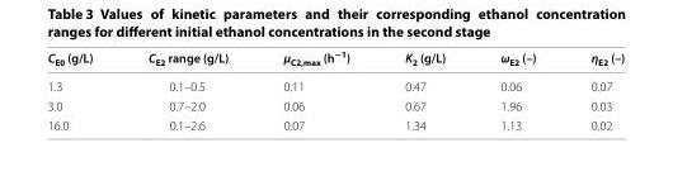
<table><thead><tr><td>C<sub>E0</sub> (g/L)</td><td>C<sub>E2</sub> range (g/L)</td><td>μ<sub>C2,max</sub> (h<sup>−1</sup>)</td><td>K<sub>2</sub> (g/L)</td><td>ω<sub>E2</sub> (–)</td><td>η<sub>E2</sub> (–)</td></tr></thead><tbody><tr><td>1.3</td><td>0.1–0.5</td><td>0.11</td><td>0.47</td><td>0.06</td><td>0.07</td></tr><tr><td>3.0</td><td>0.7–2.0</td><td>0.06</td><td>0.67</td><td>1.96</td><td>0.03</td></tr><tr><td>16.0</td><td>0.1–2.6</td><td>0.07</td><td>1.34</td><td>1.13</td><td>0.02</td></tr></tbody></table>